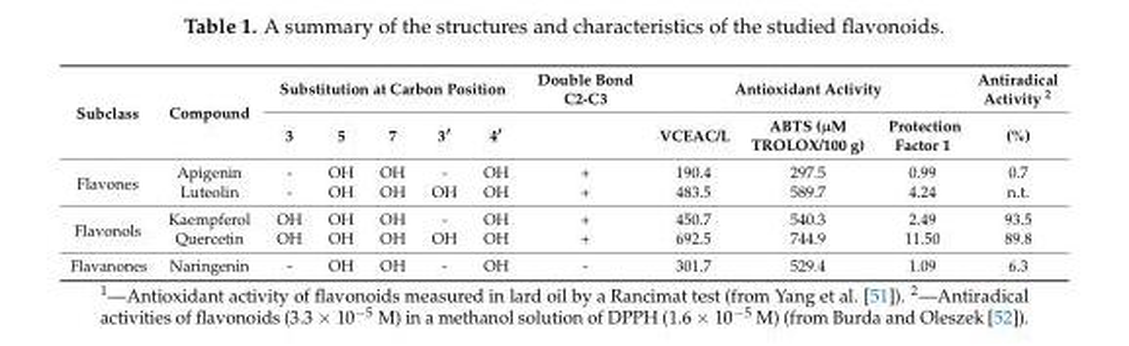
<table><thead><tr><td rowspan="2">Subclass</td><td rowspan="2">Compound</td><td colspan="5">Substitution at Carbon Position</td><td rowspan="2">Double Bond C2-C3</td><td colspan="3">Antioxidant Activity</td><td rowspan="2">Antiradical Activity <sup>2</sup> (%)</td></tr><tr><td>3</td><td>5</td><td>7</td><td>3′</td><td>4′</td><td>VCEAC/L</td><td>ABTS (µM TROLOX/100 g)</td><td>Protection Factor 1</td></tr></thead><tbody><tr><td rowspan="2">Flavones</td><td>Apigenin</td><td>-</td><td>OH</td><td>OH</td><td>-</td><td>OH</td><td>+</td><td>190.4</td><td>297.5</td><td>0.99</td><td>0.7</td></tr><tr><td>Luteolin</td><td>-</td><td>OH</td><td>OH</td><td>OH</td><td>OH</td><td>+</td><td>483.5</td><td>589.7</td><td>4.24</td><td>n.t.</td></tr><tr><td rowspan="2">Flavonols</td><td>Kaempferol</td><td>OH</td><td>OH</td><td>OH</td><td>-</td><td>OH</td><td>+</td><td>450.7</td><td>540.3</td><td>2.49</td><td>93.5</td></tr><tr><td>Quercetin</td><td>OH</td><td>OH</td><td>OH</td><td>OH</td><td>OH</td><td>+</td><td>692.5</td><td>744.9</td><td>11.50</td><td>89.8</td></tr><tr><td>Flavanones</td><td>Naringenin</td><td>-</td><td>OH</td><td>OH</td><td>-</td><td>OH</td><td>-</td><td>301.7</td><td>529.4</td><td>1.09</td><td>6.3</td></tr></tbody></table>